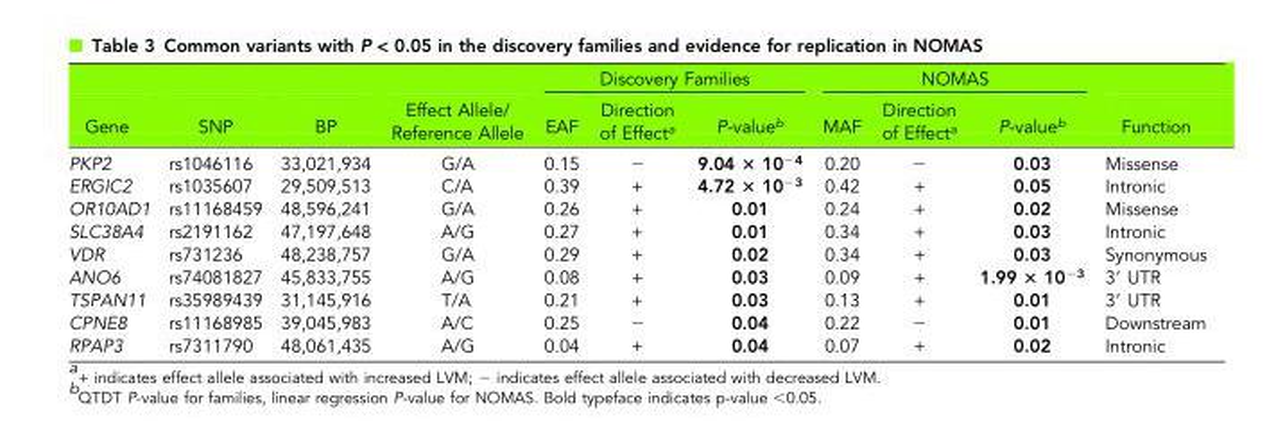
<table><thead><tr><td rowspan="2">Gene</td><td rowspan="2">SNP</td><td rowspan="2">BP</td><td rowspan="2">Effect Allele/ Reference Allele</td><td colspan="3">Discovery Families</td><td colspan="3">NOMAS</td><td rowspan="2">Function</td></tr><tr><td>EAF</td><td>Direction of Effect<sup>a</sup></td><td>P-value<sup>b</sup></td><td>MAF</td><td>Direction of Effect<sup>a</sup></td><td>P-value<sup>b</sup></td></tr></thead><tbody><tr><td>PKP2</td><td>rs1046116</td><td>33,021,934</td><td>G/A</td><td>0.15</td><td>−</td><td>9.04 × 10<sup>−4</sup></td><td>0.20</td><td>−</td><td>0.03</td><td>Missense</td></tr><tr><td>ERGIC2</td><td>rs1035607</td><td>29,509,513</td><td>C/A</td><td>0.39</td><td>+</td><td>4.72 × 10<sup>−3</sup></td><td>0.42</td><td>+</td><td>0.05</td><td>Intronic</td></tr><tr><td>OR10AD1</td><td>rs11168459</td><td>48,596,241</td><td>G/A</td><td>0.26</td><td>+</td><td>0.01</td><td>0.24</td><td>+</td><td>0.02</td><td>Missense</td></tr><tr><td>SLC38A4</td><td>rs2191162</td><td>47,197,648</td><td>A/G</td><td>0.27</td><td>+</td><td>0.01</td><td>0.34</td><td>+</td><td>0.03</td><td>Intronic</td></tr><tr><td>VDR</td><td>rs731236</td><td>48,238,757</td><td>G/A</td><td>0.29</td><td>+</td><td>0.02</td><td>0.34</td><td>+</td><td>0.03</td><td>Synonymous</td></tr><tr><td>ANO6</td><td>rs74081827</td><td>45,833,755</td><td>A/G</td><td>0.08</td><td>+</td><td>0.03</td><td>0.09</td><td>+</td><td>1.99 × 10<sup>−3</sup></td><td>3′ UTR</td></tr><tr><td>TSPAN11</td><td>rs35989439</td><td>31,145,916</td><td>T/A</td><td>0.21</td><td>+</td><td>0.03</td><td>0.13</td><td>+</td><td>0.01</td><td>3′ UTR</td></tr><tr><td>CPNE8</td><td>rs11168985</td><td>39,045,983</td><td>A/C</td><td>0.25</td><td>−</td><td>0.04</td><td>0.22</td><td>−</td><td>0.01</td><td>Downstream</td></tr><tr><td>RPAP3</td><td>rs7311790</td><td>48,061,435</td><td>A/G</td><td>0.04</td><td>+</td><td>0.04</td><td>0.07</td><td>+</td><td>0.02</td><td>Intronic</td></tr></tbody></table>